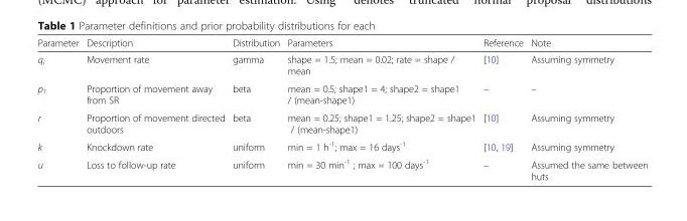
<table><thead><tr><td>Parameter</td><td>Description</td><td>Distribution</td><td>Parameters</td><td>Reference</td><td>Note</td></tr></thead><tbody><tr><td>q<sub>i</sub></td><td>Movement rate</td><td>gamma</td><td>shape = 1.5; mean = 0.02; rate = shape / mean</td><td>[10]</td><td>Assuming symmetry</td></tr><tr><td>p<sub>1</sub></td><td>Proportion of movement away from SR</td><td>beta</td><td>mean = 0.5; shape1 = 4; shape2 = shape1 / (mean-shape1)</td><td>–</td><td>–</td></tr><tr><td>r</td><td>Proportion of movement directed outdoors</td><td>beta</td><td>mean = 0.25; shape1 = 1.25; shape2 = shape1 / (mean-shape1)</td><td>[10]</td><td>Assuming symmetry</td></tr><tr><td>k</td><td>Knockdown rate</td><td>uniform</td><td>min = 1 h<sup>-1</sup>; max = 16 days<sup>-1</sup></td><td>[10, 19]</td><td>Assuming symmetry</td></tr><tr><td>u</td><td>Loss to follow-up rate</td><td>uniform</td><td>min = 30 min<sup>-1</sup> ; max = 100 days<sup>-1</sup></td><td>–</td><td>Assumed the same between huts</td></tr></tbody></table>